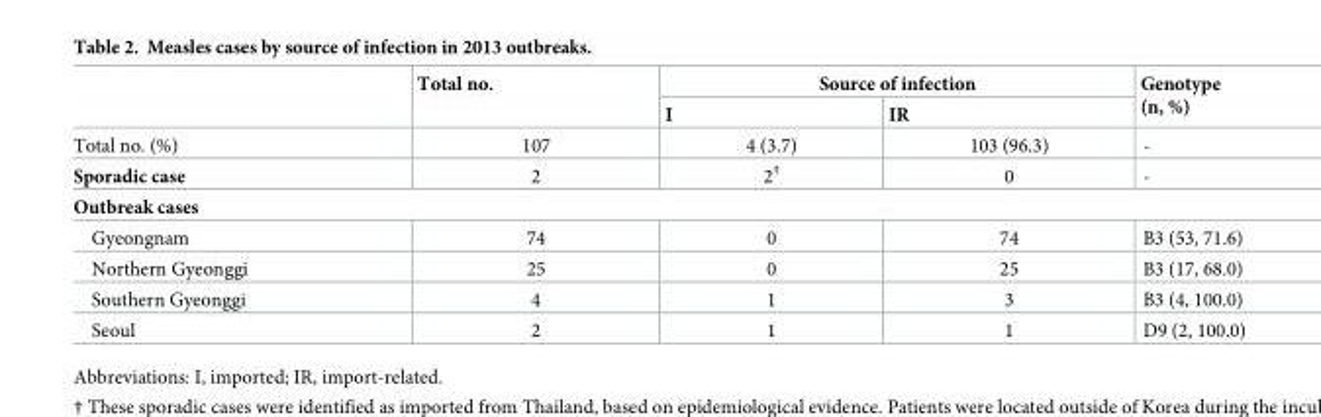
<table><thead><tr><td rowspan="2"></td><td rowspan="2">Total no.</td><td colspan="2">Source of infection</td><td rowspan="2">Genotype (n, %)</td></tr><tr><td>I</td><td>IR</td></tr></thead><tbody><tr><td>Total no. (%)</td><td>107</td><td>4 (3.7)</td><td>103 (96.3)</td><td>-</td></tr><tr><td>Sporadic case</td><td>2</td><td>2<sup>†</sup></td><td>0</td><td>-</td></tr><tr><td colspan="5">Outbreak cases</td></tr><tr><td>Gyeongnam</td><td>74</td><td>0</td><td>74</td><td>B3 (53, 71.6)</td></tr><tr><td>Northern Gyeonggi</td><td>25</td><td>0</td><td>25</td><td>B3 (17, 68.0)</td></tr><tr><td>Southern Gyeonggi</td><td>4</td><td>1</td><td>3</td><td>B3 (4, 100.0)</td></tr><tr><td>Seoul</td><td>2</td><td>1</td><td>1</td><td>D9 (2, 100.0)</td></tr></tbody></table>